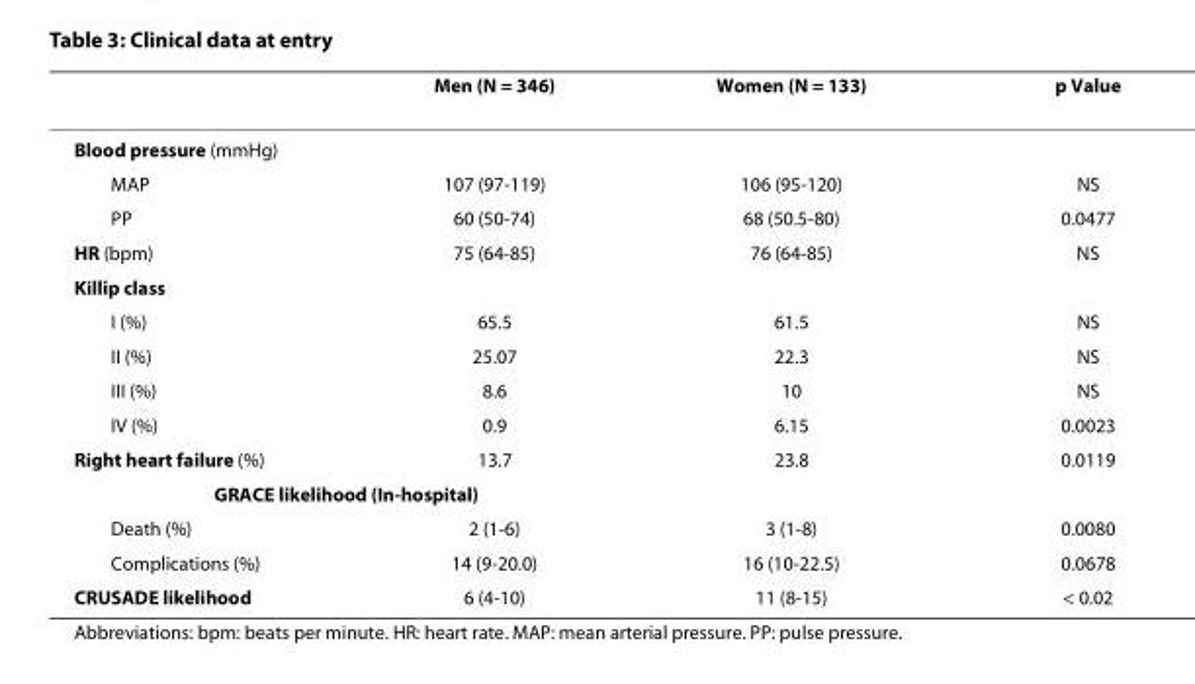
<table><thead><tr><td></td><td>Men (N = 346)</td><td>Women (N = 133)</td><td>p Value</td></tr></thead><tbody><tr><td colspan="4">Blood pressure (mmHg)</td></tr><tr><td>MAP</td><td>107 (97-119)</td><td>106 (95-120)</td><td>NS</td></tr><tr><td>PP</td><td>60 (50-74)</td><td>68 (50.5-80)</td><td>0.0477</td></tr><tr><td>HR (bpm)</td><td>75 (64-85)</td><td>76 (64-85)</td><td>NS</td></tr><tr><td colspan="4">Killip class</td></tr><tr><td>I (%)</td><td>65.5</td><td>61.5</td><td>NS</td></tr><tr><td>II (%)</td><td>25.07</td><td>22.3</td><td>NS</td></tr><tr><td>III (%)</td><td>8.6</td><td>10</td><td>NS</td></tr><tr><td>IV (%)</td><td>0.9</td><td>6.15</td><td>0.0023</td></tr><tr><td>Right heart failure (%)</td><td>13.7</td><td>23.8</td><td>0.0119</td></tr><tr><td colspan="4">GRACE likelihood (In-hospital)</td></tr><tr><td>Death (%)</td><td>2 (1-6)</td><td>3 (1-8)</td><td>0.0080</td></tr><tr><td>Complications (%)</td><td>14 (9-20.0)</td><td>16 (10-22.5)</td><td>0.0678</td></tr><tr><td>CRUSADE likelihood</td><td>6 (4-10)</td><td>11 (8-15)</td><td>&lt; 0.02</td></tr></tbody></table>